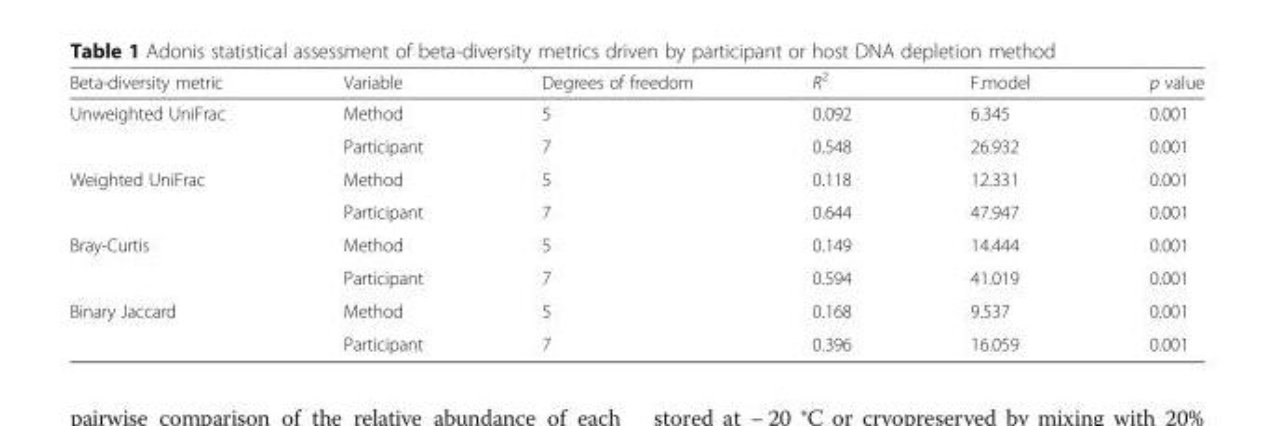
<table><thead><tr><td>Beta-diversity metric</td><td>Variable</td><td>Degrees of freedom</td><td>R<sup>2</sup></td><td>F.model</td><td>p value</td></tr></thead><tbody><tr><td rowspan="2">Unweighted UniFrac</td><td>Method</td><td>5</td><td>0.092</td><td>6.345</td><td>0.001</td></tr><tr><td>Participant</td><td>7</td><td>0.548</td><td>26.932</td><td>0.001</td></tr><tr><td rowspan="2">Weighted UniFrac</td><td>Method</td><td>5</td><td>0.118</td><td>12.331</td><td>0.001</td></tr><tr><td>Participant</td><td>7</td><td>0.644</td><td>47.947</td><td>0.001</td></tr><tr><td rowspan="2">Bray-Curtis</td><td>Method</td><td>5</td><td>0.149</td><td>14.444</td><td>0.001</td></tr><tr><td>Participant</td><td>7</td><td>0.594</td><td>41.019</td><td>0.001</td></tr><tr><td rowspan="2">Binary Jaccard</td><td>Method</td><td>5</td><td>0.168</td><td>9.537</td><td>0.001</td></tr><tr><td>Participant</td><td>7</td><td>0.396</td><td>16.059</td><td>0.001</td></tr></tbody></table>